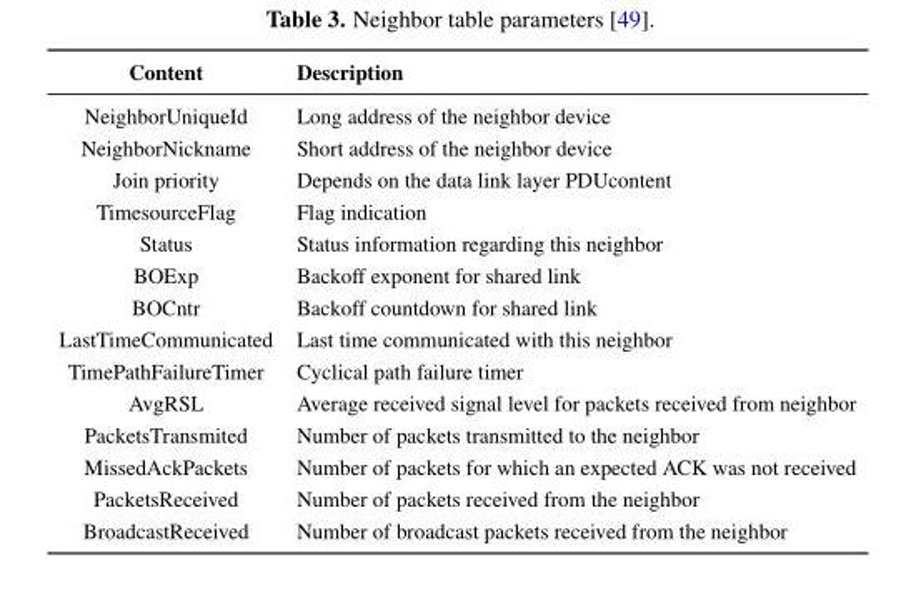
<table><thead><tr><td>Content</td><td>Description</td></tr></thead><tbody><tr><td>NeighborUniqueId</td><td>Long address of the neighbor device</td></tr><tr><td>NeighborNickname</td><td>Short address of the neighbor device</td></tr><tr><td>Join priority</td><td>Depends on the data link layer PDUcontent</td></tr><tr><td>TimesourceFlag</td><td>Flag indication</td></tr><tr><td>Status</td><td>Status information regarding this neighbor</td></tr><tr><td>BOExp</td><td>Backoff exponent for shared link</td></tr><tr><td>BOCntr</td><td>Backoff countdown for shared link</td></tr><tr><td>LastTimeCommunicated</td><td>Last time communicated with this neighbor</td></tr><tr><td>TimePathFailureTimer</td><td>Cyclical path failure timer</td></tr><tr><td>AvgRSL</td><td>Average received signal level for packets received from neighbor</td></tr><tr><td>PacketsTransmited</td><td>Number of packets transmitted to the neighbor</td></tr><tr><td>MissedAckPackets</td><td>Number of packets for which an expected ACK was not received</td></tr><tr><td>PacketsReceived</td><td>Number of packets received from the neighbor</td></tr><tr><td>BroadcastReceived</td><td>Number of broadcast packets received from the neighbor</td></tr></tbody></table>